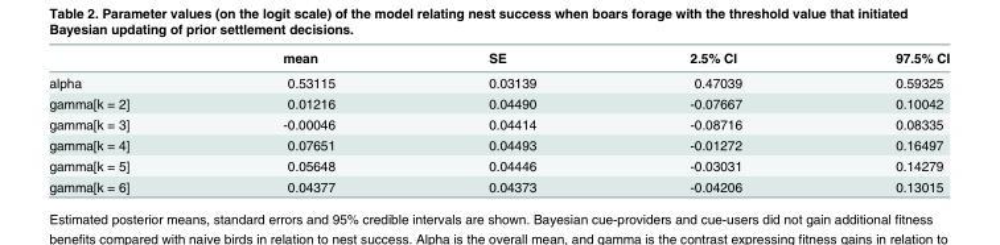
<table><thead><tr><td></td><td>mean</td><td>SE</td><td>2.5% CI</td><td>97.5% CI</td></tr></thead><tbody><tr><td>alpha</td><td>0.53115</td><td>0.03139</td><td>0.47039</td><td>0.59325</td></tr><tr><td>gamma[k = 2]</td><td>0.01216</td><td>0.04490</td><td>-0.07667</td><td>0.10042</td></tr><tr><td>gamma[k = 3]</td><td>-0.00046</td><td>0.04414</td><td>-0.08716</td><td>0.08335</td></tr><tr><td>gamma[k = 4]</td><td>0.07651</td><td>0.04493</td><td>-0.01272</td><td>0.16497</td></tr><tr><td>gamma[k = 5]</td><td>0.05648</td><td>0.04446</td><td>-0.03031</td><td>0.14279</td></tr><tr><td>gamma[k = 6]</td><td>0.04377</td><td>0.04373</td><td>-0.04206</td><td>0.13015</td></tr></tbody></table>